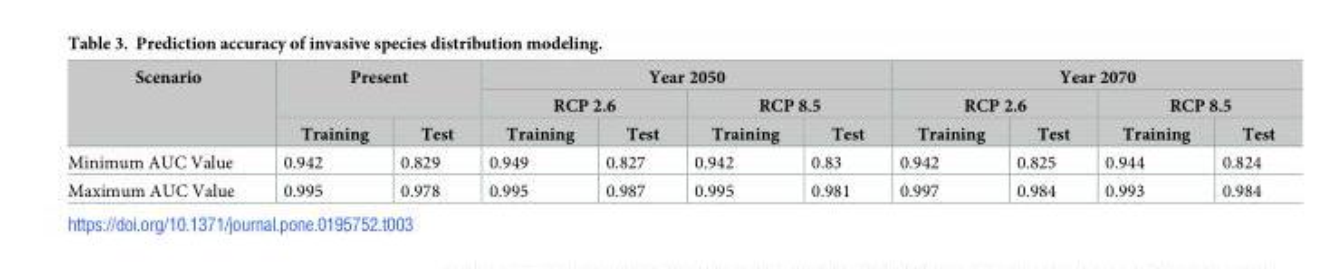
<table><thead><tr><td rowspan="3">Scenario</td><td rowspan="2" colspan="2">Present</td><td colspan="4">Year 2050</td><td colspan="4">Year 2070</td></tr><tr><td colspan="2">RCP 2.6</td><td colspan="2">RCP 8.5</td><td colspan="2">RCP 2.6</td><td colspan="2">RCP 8.5</td></tr><tr><td>Training</td><td>Test</td><td>Training</td><td>Test</td><td>Training</td><td>Test</td><td>Training</td><td>Test</td><td>Training</td><td>Test</td></tr></thead><tbody><tr><td>Minimum AUC Value</td><td>0.942</td><td>0.829</td><td>0.949</td><td>0.827</td><td>0.942</td><td>0.83</td><td>0.942</td><td>0.825</td><td>0.944</td><td>0.824</td></tr><tr><td>Maximum AUC Value</td><td>0.995</td><td>0.978</td><td>0.995</td><td>0.987</td><td>0.995</td><td>0.981</td><td>0.997</td><td>0.984</td><td>0.993</td><td>0.984</td></tr></tbody></table>